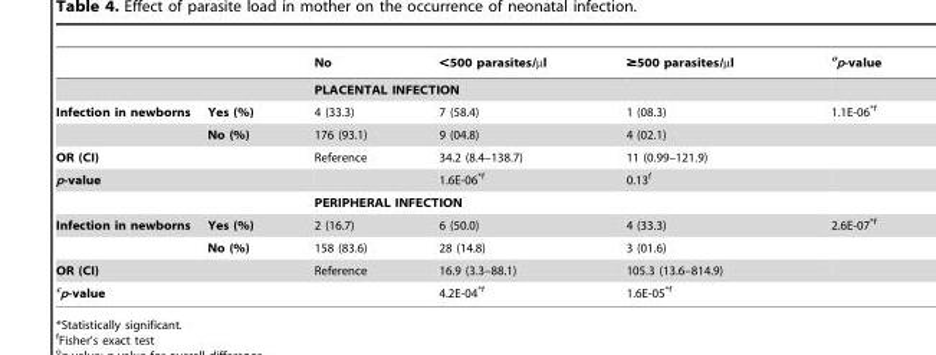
<table><thead><tr><td></td><td></td><td>No</td><td>&lt;500 parasites/µl</td><td>≥500 parasites/µl</td><td>op-value</td></tr></thead><tbody><tr><td colspan="2"></td><td colspan="3">PLACENTAL INFECTION</td><td></td></tr><tr><td rowspan="2">Infection in newborns</td><td>Yes (%)</td><td>4 (33.3)</td><td>7 (58.4)</td><td>1 (08.3)</td><td>1.1E-06*f</td></tr><tr><td>No (%)</td><td>176 (93.1)</td><td>9 (04.8)</td><td>4 (02.1)</td><td></td></tr><tr><td colspan="2">OR (CI)</td><td>Reference</td><td>34.2 (8.4–138.7)</td><td>11 (0.99–121.9)</td><td></td></tr><tr><td colspan="2">p-value</td><td></td><td>1.6E-06*f</td><td>0.13<sup>f</sup></td><td></td></tr><tr><td></td><td></td><td colspan="3">PERIPHERAL INFECTION</td><td></td></tr><tr><td rowspan="2">Infection in newborns</td><td>Yes (%)</td><td>2 (16.7)</td><td>6 (50.0)</td><td>4 (33.3)</td><td>2.6E-07*f</td></tr><tr><td>No (%)</td><td>158 (83.6)</td><td>28 (14.8)</td><td>3 (01.6)</td><td></td></tr><tr><td colspan="2">OR (CI)</td><td>Reference</td><td>16.9 (3.3–88.1)</td><td>105.3 (13.6–814.9)</td><td></td></tr><tr><td colspan="2">cp-value</td><td></td><td>4.2E-04*f</td><td>1.6E-05*f</td><td></td></tr></tbody></table>